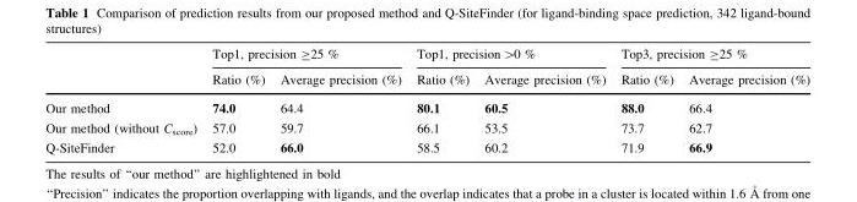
<table><thead><tr><td rowspan="2"></td><td colspan="2">Top1, precision ≥25 %</td><td colspan="2">Top1, precision &gt;0 %</td><td colspan="2">Top3, precision ≥25 %</td></tr><tr><td>Ratio (%)</td><td>Average precision (%)</td><td>Ratio (%)</td><td>Average precision (%)</td><td>Ratio (%)</td><td>Average precision (%)</td></tr></thead><tbody><tr><td>Our method</td><td>74.0</td><td>64.4</td><td>80.1</td><td>60.5</td><td>88.0</td><td>66.4</td></tr><tr><td>Our method (without C<sub>score</sub>)</td><td>57.0</td><td>59.7</td><td>66.1</td><td>53.5</td><td>73.7</td><td>62.7</td></tr><tr><td>Q-SiteFinder</td><td>52.0</td><td>66.0</td><td>58.5</td><td>60.2</td><td>71.9</td><td>66.9</td></tr></tbody></table>